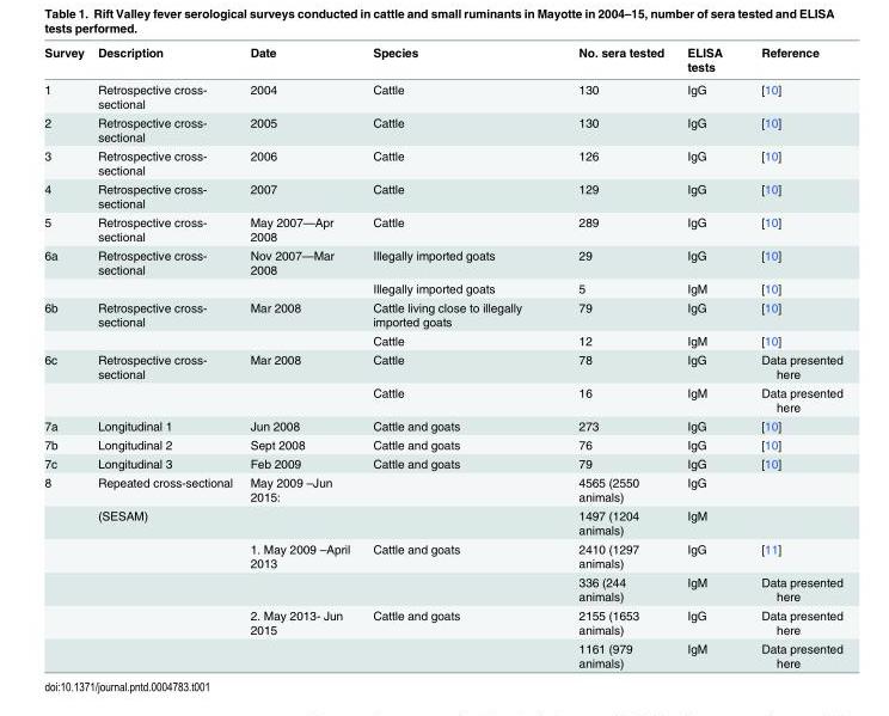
<table><thead><tr><td>Survey</td><td>Description</td><td>Date</td><td>Species</td><td>No. sera tested</td><td>ELISA tests</td><td>Reference</td></tr></thead><tbody><tr><td>1</td><td>Retrospective cross- sectional</td><td>2004</td><td>Cattle</td><td>130</td><td>IgG</td><td>[10]</td></tr><tr><td>2</td><td>Retrospective cross- sectional</td><td>2005</td><td>Cattle</td><td>130</td><td>IgG</td><td>[10]</td></tr><tr><td>3</td><td>Retrospective cross- sectional</td><td>2006</td><td>Cattle</td><td>126</td><td>IgG</td><td>[10]</td></tr><tr><td>4</td><td>Retrospective cross- sectional</td><td>2007</td><td>Cattle</td><td>129</td><td>IgG</td><td>[10]</td></tr><tr><td>5</td><td>Retrospective cross- sectional</td><td>May 2007—Apr 2008</td><td>Cattle</td><td>289</td><td>IgG</td><td>[10]</td></tr><tr><td rowspan="2">6a</td><td>Retrospective cross- sectional</td><td>Nov 2007—Mar 2008</td><td>Illegally imported goats</td><td>29</td><td>IgG</td><td>[10]</td></tr><tr><td></td><td></td><td>Illegally imported goats</td><td>5</td><td>IgM</td><td>[10]</td></tr><tr><td rowspan="2">6b</td><td>Retrospective cross- sectional</td><td>Mar 2008</td><td>Cattle living close to illegally imported goats</td><td>79</td><td>IgG</td><td>[10]</td></tr><tr><td></td><td></td><td>Cattle</td><td>12</td><td>IgM</td><td>[10]</td></tr><tr><td rowspan="2">6c</td><td>Retrospective cross- sectional</td><td>Mar 2008</td><td>Cattle</td><td>78</td><td>IgG</td><td>Data presented here</td></tr><tr><td></td><td></td><td>Cattle</td><td>16</td><td>IgM</td><td>Data presented here</td></tr><tr><td>7a</td><td>Longitudinal 1</td><td>Jun 2008</td><td>Cattle and goats</td><td>273</td><td>IgG</td><td>[10]</td></tr><tr><td>7b</td><td>Longitudinal 2</td><td>Sept 2008</td><td>Cattle and goats</td><td>76</td><td>IgG</td><td>[10]</td></tr><tr><td>7c</td><td>Longitudinal 3</td><td>Feb 2009</td><td>Cattle and goats</td><td>79</td><td>IgG</td><td>[10]</td></tr><tr><td rowspan="6">8</td><td>Repeated cross-sectional</td><td>May 2009 –Jun 2015:</td><td></td><td>4565 (2550 animals)</td><td>IgG</td><td></td></tr><tr><td>(SESAM)</td><td></td><td></td><td>1497 (1204 animals)</td><td>IgM</td><td></td></tr><tr><td></td><td>1. May 2009 –April 2013</td><td>Cattle and goats</td><td>2410 (1297 animals)</td><td>IgG</td><td>[11]</td></tr><tr><td></td><td></td><td></td><td>336 (244 animals)</td><td>IgM</td><td>Data presented here</td></tr><tr><td></td><td>2. May 2013- Jun 2015</td><td>Cattle and goats</td><td>2155 (1653 animals)</td><td>IgG</td><td>Data presented here</td></tr><tr><td></td><td></td><td></td><td>1161 (979 animals)</td><td>IgM</td><td>Data presented here</td></tr></tbody></table>